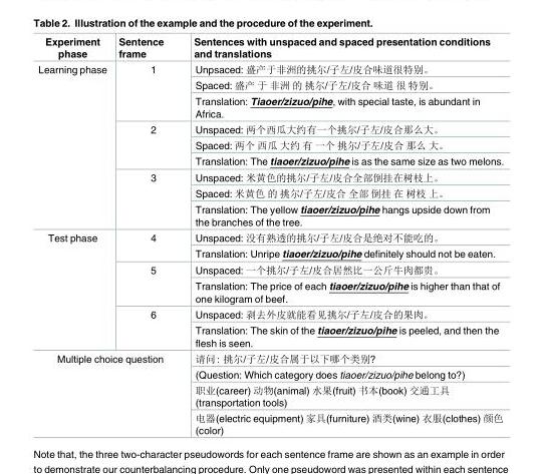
<table><thead><tr><td>Experiment phase</td><td>Sentence frame</td><td>Sentences with unspaced and spaced presentation conditions and translations</td></tr></thead><tbody><tr><td rowspan="9">Learning phase</td><td rowspan="3">1</td><td>Unpsaced: 盛产于非洲的挑尔/子左/皮合味道很特别。</td></tr><tr><td>Spaced: 盛产 于 非洲 的 挑尔/子左/皮合 味道 很 特别。</td></tr><tr><td>Translation: Tiaoer/zizuo/pihe, with special taste, is abundant in Africa.</td></tr><tr><td rowspan="3">2</td><td>Unspaced: 两个西瓜大约有一个挑尔/子左/皮合那么大。</td></tr><tr><td>Spaced: 两个 西瓜 大约 有 一个 挑尔/子左/皮合 那么 大。</td></tr><tr><td>Translation: The tiaoer/zizuo/pihe is as the same size as two melons.</td></tr><tr><td rowspan="3">3</td><td>Unspaced: 米黄色的挑尔/子左/皮合全部倒挂在树枝上。</td></tr><tr><td>Spaced: 米黄色 的 挑尔/子左/皮合 全部 倒挂 在 树枝 上。</td></tr><tr><td>Translation: The yellow tiaoer/zizuo/pihe hangs upside down from the branches of the tree.</td></tr><tr><td rowspan="6">Test phase</td><td rowspan="2">4</td><td>Unspaced: 没有熟透的挑尔/子左/皮合是绝对不能吃的。</td></tr><tr><td>Translation: Unripe tiaoer/zizuo/pihe definitely should not be eaten.</td></tr><tr><td rowspan="2">5</td><td>Unspaced: 一个挑尔/子左/皮合居然比一公斤牛肉都贵。</td></tr><tr><td>Translation: The price of each tiaoer/zizuo/pihe is higher than that of one kilogram of beef.</td></tr><tr><td rowspan="2">6</td><td>Unspaced: 剥去外皮就能看见挑尔/子左/皮合的果肉。</td></tr><tr><td>Translation: The skin of the tiaoer/zizuo/pihe is peeled, and then the flesh is seen.</td></tr><tr><td rowspan="4" colspan="2">Multiple choice question</td><td>请问: 挑尔/子左/皮合属于以下哪个类别?</td></tr><tr><td>(Question: Which category does tiaoer/zizuo/pihe belong to?)</td></tr><tr><td>职业(career) 动物(animal) 水果(fruit) 书本(book) 交通工具 (transportation tools)</td></tr><tr><td>电器(electric equipment) 家具(furniture) 酒类(wine) 衣服(clothes) 颜色 (color)</td></tr></tbody></table>